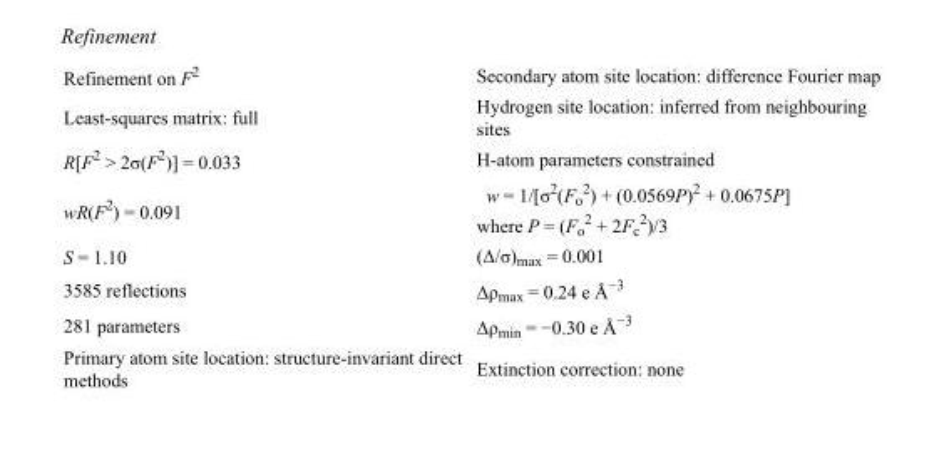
<table><tbody><tr><td>Refinement on F<sup>2</sup></td><td>Secondary atom site location: difference Fourier map</td></tr><tr><td>Least-squares matrix: full</td><td>Hydrogen site location: inferred from neighbouring sites</td></tr><tr><td>R[F<sup>2</sup> &gt; 2σ(F<sup>2</sup>)] = 0.033</td><td>H-atom parameters constrained</td></tr><tr><td>wR(F<sup>2</sup>) = 0.091</td><td>w = 1/[σ<sup>2</sup>(F<sub>o</sub> <sup>2</sup>) + (0.0569P)<sup>2</sup> + 0.0675P] where P = (F<sub>o</sub> <sup>2</sup> + 2F<sub>c</sub> <sup>2</sup>)/3</td></tr><tr><td>S = 1.10</td><td>(Δ/σ)<sub>max</sub> = 0.001</td></tr><tr><td>3585 reflections</td><td>Δρ<sub>max</sub> = 0.24 e Å<sup>−3</sup></td></tr><tr><td>281 parameters</td><td>Δρ<sub>min</sub> = −0.30 e Å<sup>−3</sup></td></tr><tr><td>Primary atom site location: structure-invariant direct methods</td><td>Extinction correction: none</td></tr></tbody></table>